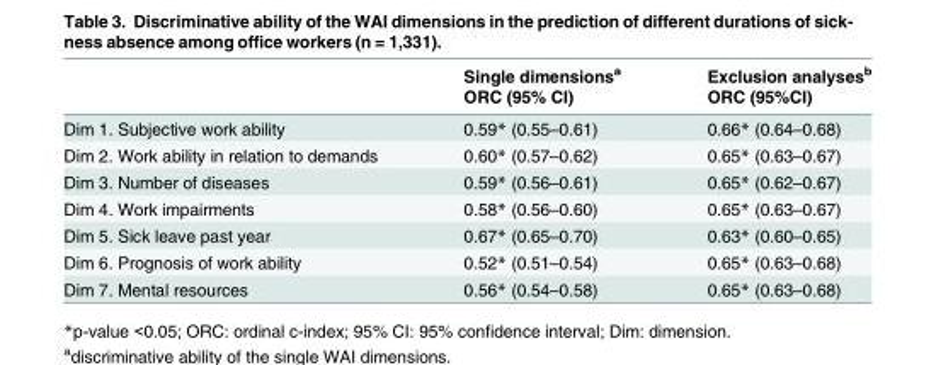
<table><thead><tr><td rowspan="2"></td><td rowspan="2">Single dimensions<sup>a</sup> ORC (95% CI)</td><td rowspan="2">Exclusion analyses<sup>b</sup> ORC (95%CI)</td></tr><tr></tr></thead><tbody><tr><td>Dim 1. Subjective work ability</td><td>0.59* (0.55–0.61)</td><td>0.66* (0.64–0.68)</td></tr><tr><td>Dim 2. Work ability in relation to demands</td><td>0.60* (0.57–0.62)</td><td>0.65* (0.63–0.67)</td></tr><tr><td>Dim 3. Number of diseases</td><td>0.59* (0.56–0.61)</td><td>0.65* (0.62–0.67)</td></tr><tr><td>Dim 4. Work impairments</td><td>0.58* (0.56–0.60)</td><td>0.65* (0.63–0.67)</td></tr><tr><td>Dim 5. Sick leave past year</td><td>0.67* (0.65–0.70)</td><td>0.63* (0.60–0.65)</td></tr><tr><td>Dim 6. Prognosis of work ability</td><td>0.52* (0.51–0.54)</td><td>0.65* (0.63–0.68)</td></tr><tr><td>Dim 7. Mental resources</td><td>0.56* (0.54–0.58)</td><td>0.65* (0.63–0.68)</td></tr></tbody></table>